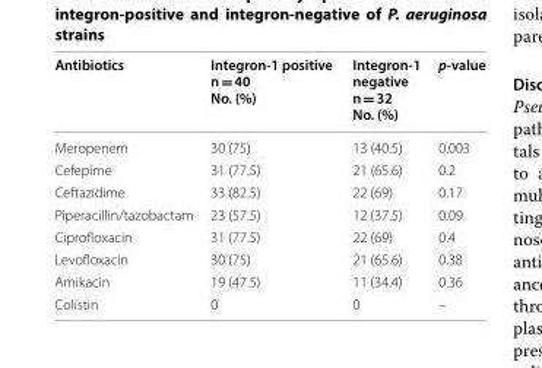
<table><thead><tr><td>Antibiotics</td><td>Integron-1 positive n = 40 No. (%)</td><td>Integron-1 negative n = 32 No. (%)</td><td>p-value</td></tr></thead><tbody><tr><td>Meropenem</td><td>30 (75)</td><td>13 (40.5)</td><td>0.003</td></tr><tr><td>Cefepime</td><td>31 (77.5)</td><td>21 (65.6)</td><td>0.2</td></tr><tr><td>Ceftazidime</td><td>33 (82.5)</td><td>22 (69)</td><td>0.17</td></tr><tr><td>Piperacillin/tazobactam</td><td>23 (57.5)</td><td>12 (37.5)</td><td>0.09</td></tr><tr><td>Ciprofloxacin</td><td>31 (77.5)</td><td>22 (69)</td><td>0.4</td></tr><tr><td>Levofloxacin</td><td>30 (75)</td><td>21 (65.6)</td><td>0.38</td></tr><tr><td>Amikacin</td><td>19 (47.5)</td><td>11 (34.4)</td><td>0.36</td></tr><tr><td>Colistin</td><td>0</td><td>0</td><td>–</td></tr></tbody></table>